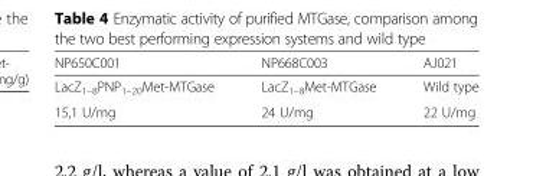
<table><thead><tr><td>NP650C001</td><td>NP668C003</td><td>AJ021</td></tr></thead><tbody><tr><td>LacZ<sub>1–8</sub>PNP<sub>1–20</sub>Met-MTGase</td><td>LacZ<sub>1–8</sub>Met-MTGase</td><td>Wild type</td></tr><tr><td>15,1 U/mg</td><td>24 U/mg</td><td>22 U/mg</td></tr></tbody></table>